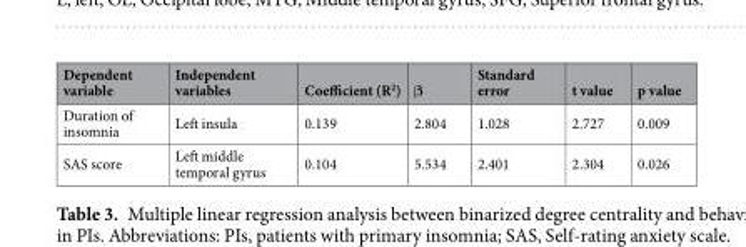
<table><thead><tr><td>Dependent variable</td><td>Independent variables</td><td>Coefficient (R<sup>2</sup>)</td><td>β</td><td>Standard error</td><td>t value</td><td>p value</td></tr></thead><tbody><tr><td>Duration of insomnia</td><td>Left insula</td><td>0.139</td><td>2.804</td><td>1.028</td><td>2.727</td><td>0.009</td></tr><tr><td>SAS score</td><td>Left middle temporal gyrus</td><td>0.104</td><td>5.534</td><td>2.401</td><td>2.304</td><td>0.026</td></tr></tbody></table>